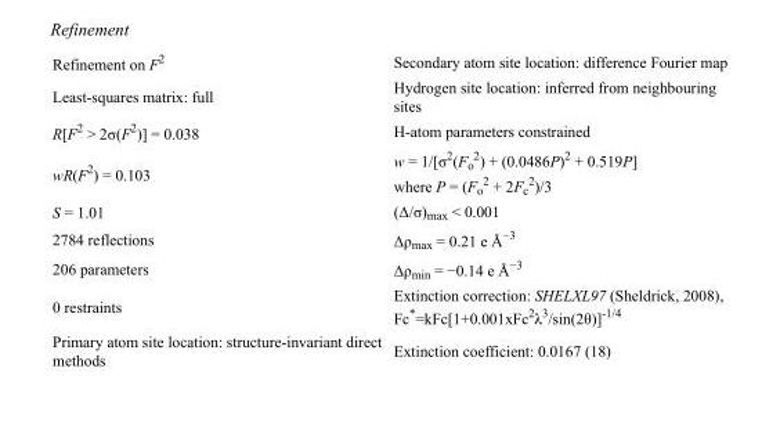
<table><tbody><tr><td>Refinement on F<sup>2</sup></td><td>Secondary atom site location: difference Fourier map</td></tr><tr><td>Least-squares matrix: full</td><td>Hydrogen site location: inferred from neighbouring sites</td></tr><tr><td>R[F<sup>2</sup> &gt; 2σ(F<sup>2</sup>)] = 0.038</td><td>H-atom parameters constrained</td></tr><tr><td>wR(F<sup>2</sup>) = 0.103</td><td>w = 1/[σ<sup>2</sup>(F<sub>o</sub> <sup>2</sup>) + (0.0486P)<sup>2</sup> + 0.519P] where P = (F<sub>o</sub> <sup>2</sup> + 2F<sub>c</sub> <sup>2</sup>)/3</td></tr><tr><td>S = 1.01</td><td>(Δ/σ)<sub>max</sub> &lt; 0.001</td></tr><tr><td>2784 reflections</td><td>Δρ<sub>max</sub> = 0.21 e Å<sup>−3</sup></td></tr><tr><td>206 parameters</td><td>Δρ<sub>min</sub> = −0.14 e Å<sup>−3</sup></td></tr><tr><td>0 restraints</td><td>Extinction correction: SHELXL97 (Sheldrick, 2008), Fc*=kFc[1+0.001xFc<sup>2</sup>λ<sup>3</sup>/sin(2θ)]<sup>-1/4</sup></td></tr><tr><td>Primary atom site location: structure-invariant direct methods</td><td>Extinction coefficient: 0.0167 (18)</td></tr></tbody></table>